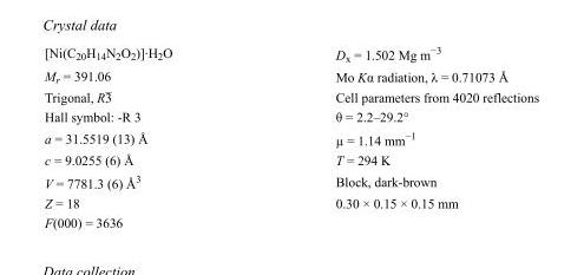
<table><tbody><tr><td>[Ni(C<sub>20</sub>H<sub>14</sub>N<sub>2</sub>O<sub>2</sub>)]·H<sub>2</sub>O</td><td>D<sub>x</sub> = 1.502 Mg m<sup>−3</sup></td></tr><tr><td>M<sub>r</sub> = 391.06</td><td>Mo Kα radiation, λ = 0.71073 Å</td></tr><tr><td>Trigonal, R3</td><td>Cell parameters from 4020 reflections</td></tr><tr><td>Hall symbol: -R 3</td><td>θ = 2.2–29.2°</td></tr><tr><td>a = 31.5519 (13) Å</td><td>µ = 1.14 mm<sup>−1</sup></td></tr><tr><td>c = 9.0255 (6) Å</td><td>T = 294 K</td></tr><tr><td>V = 7781.3 (6) Å<sup>3</sup></td><td>Block, dark-brown</td></tr><tr><td>Z = 18</td><td>0.30 × 0.15 × 0.15 mm</td></tr><tr><td>F(000) = 3636</td><td></td></tr></tbody></table>